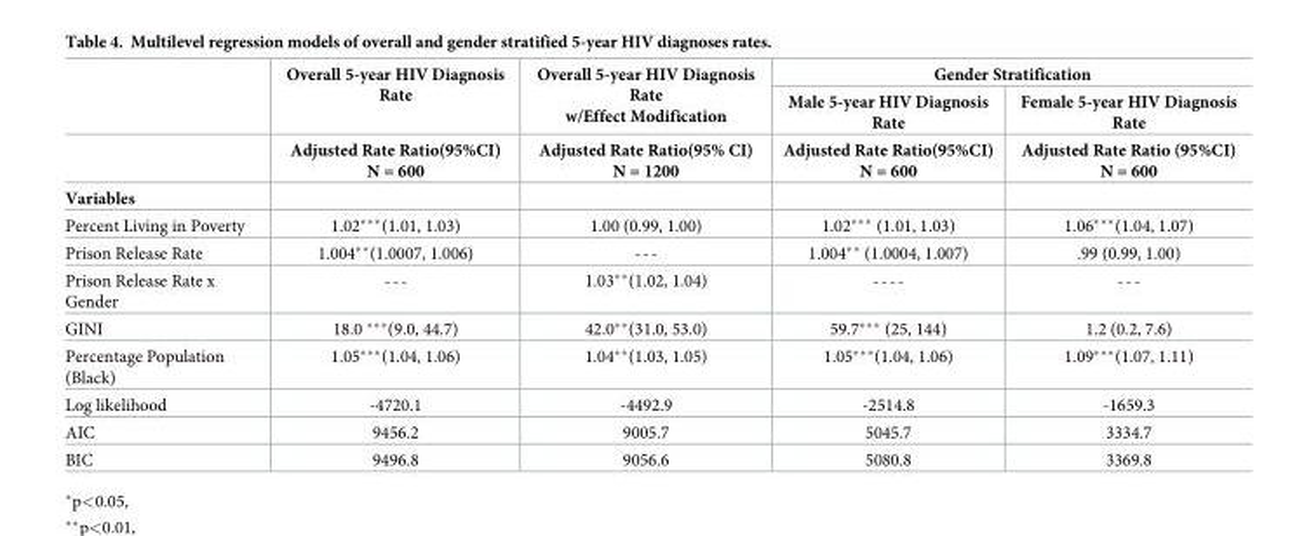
<table><thead><tr><td rowspan="4">Variables</td><td rowspan="4">Overall 5-year HIV Diagnosis Rate Adjusted Rate Ratio(95%CI) N = 600</td><td rowspan="4">Overall 5-year HIV Diagnosis Rate w/Effect Modification Adjusted Rate Ratio(95% CI) N = 1200</td><td colspan="2">Gender Stratification</td></tr><tr><td rowspan="3">Male 5-year HIV Diagnosis Rate Adjusted Rate Ratio(95%CI) N = 600</td><td rowspan="3">Female 5-year HIV Diagnosis Rate Adjusted Rate Ratio (95%CI) N = 600</td></tr><tr></tr><tr></tr></thead><tbody><tr><td>Percent Living in Poverty</td><td>1.02***(1.01, 1.03)</td><td>1.00 (0.99, 1.00)</td><td>1.02*** (1.01, 1.03)</td><td>1.06***(1.04, 1.07)</td></tr><tr><td>Prison Release Rate</td><td>1.004**(1.0007, 1.006)</td><td>---</td><td>1.004** (1.0004, 1.007)</td><td>.99 (0.99, 1.00)</td></tr><tr><td>Prison Release Rate x Gender</td><td>---</td><td>1.03**(1.02, 1.04)</td><td>----</td><td>---</td></tr><tr><td>GINI</td><td>18.0 ***(9.0, 44.7)</td><td>42.0**(31.0, 53.0)</td><td>59.7*** (25, 144)</td><td>1.2 (0.2, 7.6)</td></tr><tr><td>Percentage Population (Black)</td><td>1.05***(1.04, 1.06)</td><td>1.04**(1.03, 1.05)</td><td>1.05***(1.04, 1.06)</td><td>1.09***(1.07, 1.11)</td></tr><tr><td>Log likelihood</td><td>-4720.1</td><td>-4492.9</td><td>-2514.8</td><td>-1659.3</td></tr><tr><td>AIC</td><td>9456.2</td><td>9005.7</td><td>5045.7</td><td>3334.7</td></tr><tr><td>BIC</td><td>9496.8</td><td>9056.6</td><td>5080.8</td><td>3369.8</td></tr></tbody></table>